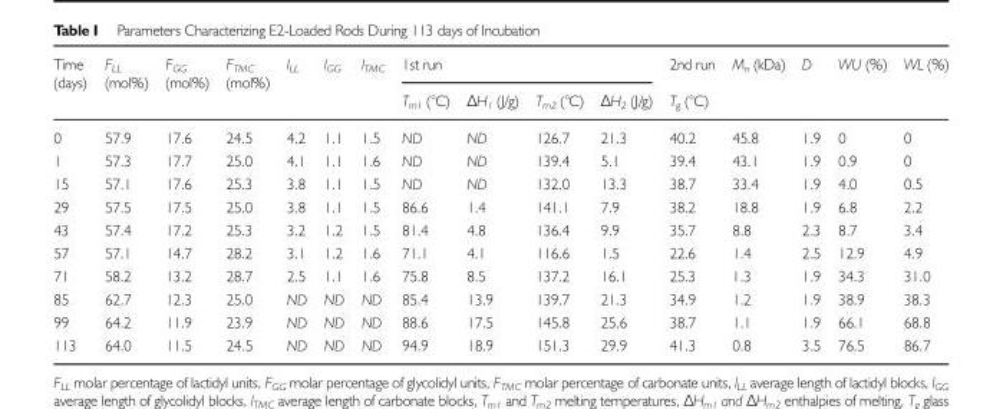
<table><thead><tr><td rowspan="2">Time (days)</td><td rowspan="2">F<sub>LL</sub> (mol%)</td><td rowspan="2">F<sub>GG</sub> (mol%)</td><td rowspan="2">F<sub>TMC</sub> (mol%)</td><td rowspan="2">l<sub>LL</sub></td><td rowspan="2">l<sub>GG</sub></td><td rowspan="2">l<sub>TMC</sub></td><td colspan="4">1st run</td><td rowspan="2">2nd run T<sub>g</sub> (°C)</td><td rowspan="2">M<sub>n</sub> (kDa)</td><td rowspan="2">D</td><td rowspan="2">WU (%)</td><td rowspan="2">WL (%)</td></tr><tr><td>T<sub>m1</sub> (°C)</td><td>ΔH1 (J/g)</td><td>T<sub>m2</sub> (°C)</td><td>ΔH2 (J/g)</td></tr></thead><tbody><tr><td>0</td><td>57.9</td><td>17.6</td><td>24.5</td><td>4.2</td><td>1.1</td><td>1.5</td><td>ND</td><td>ND</td><td>126.7</td><td>21.3</td><td>40.2</td><td>45.8</td><td>1.9</td><td>0</td><td>0</td></tr><tr><td>1</td><td>57.3</td><td>17.7</td><td>25.0</td><td>4.1</td><td>1.1</td><td>1.6</td><td>ND</td><td>ND</td><td>139.4</td><td>5.1</td><td>39.4</td><td>43.1</td><td>1.9</td><td>0.9</td><td>0</td></tr><tr><td>15</td><td>57.1</td><td>17.6</td><td>25.3</td><td>3.8</td><td>1.1</td><td>1.5</td><td>ND</td><td>ND</td><td>132.0</td><td>13.3</td><td>38.7</td><td>33.4</td><td>1.9</td><td>4.0</td><td>0.5</td></tr><tr><td>29</td><td>57.5</td><td>17.5</td><td>25.0</td><td>3.8</td><td>1.1</td><td>1.5</td><td>86.6</td><td>1.4</td><td>141.1</td><td>7.9</td><td>38.2</td><td>18.8</td><td>1.9</td><td>6.8</td><td>2.2</td></tr><tr><td>43</td><td>57.4</td><td>17.2</td><td>25.3</td><td>3.2</td><td>1.2</td><td>1.5</td><td>81.4</td><td>4.8</td><td>136.4</td><td>9.9</td><td>35.7</td><td>8.8</td><td>2.3</td><td>8.7</td><td>3.4</td></tr><tr><td>57</td><td>57.1</td><td>14.7</td><td>28.2</td><td>3.1</td><td>1.2</td><td>1.6</td><td>71.1</td><td>4.1</td><td>116.6</td><td>1.5</td><td>22.6</td><td>1.4</td><td>2.5</td><td>12.9</td><td>4.9</td></tr><tr><td>71</td><td>58.2</td><td>13.2</td><td>28.7</td><td>2.5</td><td>1.1</td><td>1.6</td><td>75.8</td><td>8.5</td><td>137.2</td><td>16.1</td><td>25.3</td><td>1.3</td><td>1.9</td><td>34.3</td><td>31.0</td></tr><tr><td>85</td><td>62.7</td><td>12.3</td><td>25.0</td><td>ND</td><td>ND</td><td>ND</td><td>85.4</td><td>13.9</td><td>139.7</td><td>21.3</td><td>34.9</td><td>1.2</td><td>1.9</td><td>38.9</td><td>38.3</td></tr><tr><td>99</td><td>64.2</td><td>11.9</td><td>23.9</td><td>ND</td><td>ND</td><td>ND</td><td>88.6</td><td>17.5</td><td>145.8</td><td>25.6</td><td>38.7</td><td>1.1</td><td>1.9</td><td>66.1</td><td>68.8</td></tr><tr><td>113</td><td>64.0</td><td>11.5</td><td>24.5</td><td>ND</td><td>ND</td><td>ND</td><td>94.9</td><td>18.9</td><td>151.3</td><td>29.9</td><td>41.3</td><td>0.8</td><td>3.5</td><td>76.5</td><td>86.7</td></tr></tbody></table>